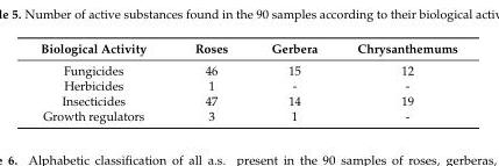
<table><thead><tr><td>Biological Activity</td><td>Roses</td><td>Gerbera</td><td>Chrysanthemums</td></tr></thead><tbody><tr><td>Fungicides</td><td>46</td><td>15</td><td>12</td></tr><tr><td>Herbicides</td><td>1</td><td>-</td><td>-</td></tr><tr><td>Insecticides</td><td>47</td><td>14</td><td>19</td></tr><tr><td>Growth regulators</td><td>3</td><td>1</td><td>-</td></tr></tbody></table>